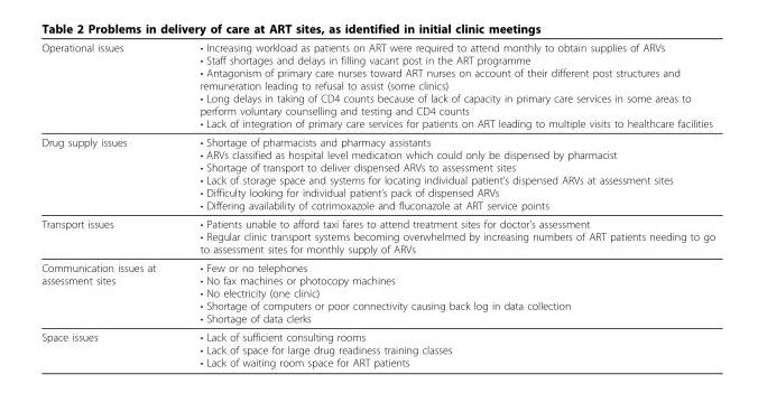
<table><thead><tr><td>Operational issues</td><td>• Increasing workload as patients on ART were required to attend monthly to obtain supplies of ARVs • Staff shortages and delays in filling vacant post in the ART programme • Antagonism of primary care nurses toward ART nurses on account of their different post structures and remuneration leading to refusal to assist (some clinics) • Long delays in taking of CD4 counts because of lack of capacity in primary care services in some areas to perform voluntary counselling and testing and CD4 counts • Lack of integration of primary care services for patients on ART leading to multiple visits to healthcare facilities</td></tr></thead><tbody><tr><td>Drug supply issues</td><td>• Shortage of pharmacists and pharmacy assistants • ARVs classified as hospital level medication which could only be dispensed by pharmacist • Shortage of transport to deliver dispensed ARVs to assessment sites • Lack of storage space and systems for locating individual patient’s dispensed ARVs at assessment sites • Difficulty looking for individual patient’s pack of dispensed ARVs • Differing availability of cotrimoxazole and fluconazole at ART service points</td></tr><tr><td>Transport issues</td><td>• Patients unable to afford taxi fares to attend treatment sites for doctor’s assessment • Regular clinic transport systems becoming overwhelmed by increasing numbers of ART patients needing to go to assessment sites for monthly supply of ARVs</td></tr><tr><td>Communication issues at assessment sites</td><td>• Few or no telephones • No fax machines or photocopy machines • No electricity (one clinic) • Shortage of computers or poor connectivity causing back log in data collection • Shortage of data clerks</td></tr><tr><td>Space issues</td><td>• Lack of sufficient consulting rooms • Lack of space for large drug readiness training classes • Lack of waiting room space for ART patients</td></tr></tbody></table>